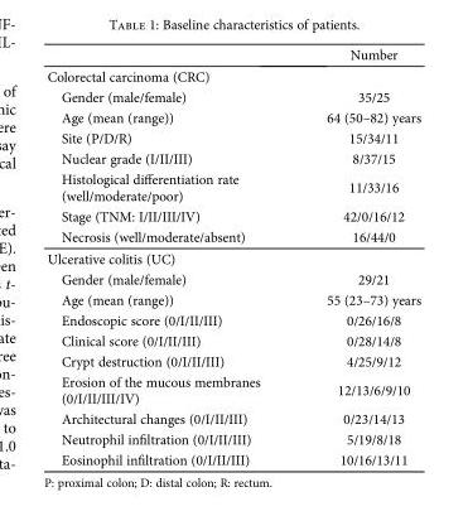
<table><thead><tr><td></td><td>Number</td></tr></thead><tbody><tr><td colspan="2">Colorectal carcinoma (CRC)</td></tr><tr><td>Gender (male/female)</td><td>35/25</td></tr><tr><td>Age (mean (range))</td><td>64 (50–82) years</td></tr><tr><td>Site (P/D/R)</td><td>15/34/11</td></tr><tr><td>Nuclear grade (I/II/III)</td><td>8/37/15</td></tr><tr><td>Histological differentiation rate (well/moderate/poor)</td><td>11/33/16</td></tr><tr><td>Stage (TNM: I/II/III/IV)</td><td>42/0/16/12</td></tr><tr><td>Necrosis (well/moderate/absent)</td><td>16/44/0</td></tr><tr><td colspan="2">Ulcerative colitis (UC)</td></tr><tr><td>Gender (male/female)</td><td>29/21</td></tr><tr><td>Age (mean (range))</td><td>55 (23–73) years</td></tr><tr><td>Endoscopic score (0/I/II/III)</td><td>0/26/16/8</td></tr><tr><td>Clinical score (0/I/II/III)</td><td>0/28/14/8</td></tr><tr><td>Crypt destruction (0/I/II/III)</td><td>4/25/9/12</td></tr><tr><td>Erosion of the mucous membranes (0/I/II/III/IV)</td><td>12/13/6/9/10</td></tr><tr><td>Architectural changes (0/I/II/III)</td><td>0/23/14/13</td></tr><tr><td>Neutrophil infiltration (0/I/II/III)</td><td>5/19/8/18</td></tr><tr><td>Eosinophil infiltration (0/I/II/III)</td><td>10/16/13/11</td></tr></tbody></table>